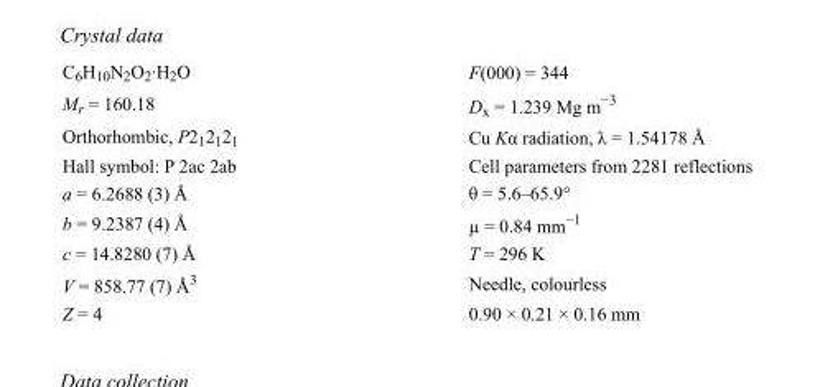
<table><tbody><tr><td>C<sub>6</sub>H<sub>10</sub>N<sub>2</sub>O<sub>2</sub>·H<sub>2</sub>O</td><td>F(000) = 344</td></tr><tr><td>M<sub>r</sub> = 160.18</td><td>D<sub>x</sub> = 1.239 Mg m<sup>−3</sup></td></tr><tr><td>Orthorhombic, P2<sub>1</sub>2<sub>1</sub>2<sub>1</sub></td><td>Cu Kα radiation, λ = 1.54178 Å</td></tr><tr><td>Hall symbol: P 2ac 2ab</td><td>Cell parameters from 2281 reflections</td></tr><tr><td>a = 6.2688 (3) Å</td><td>θ = 5.6–65.9°</td></tr><tr><td>b = 9.2387 (4) Å</td><td>µ = 0.84 mm<sup>−1</sup></td></tr><tr><td>c = 14.8280 (7) Å</td><td>T = 296 K</td></tr><tr><td>V = 858.77 (7) Å<sup>3</sup></td><td>Needle, colourless</td></tr><tr><td>Z = 4</td><td>0.90 × 0.21 × 0.16 mm</td></tr></tbody></table>